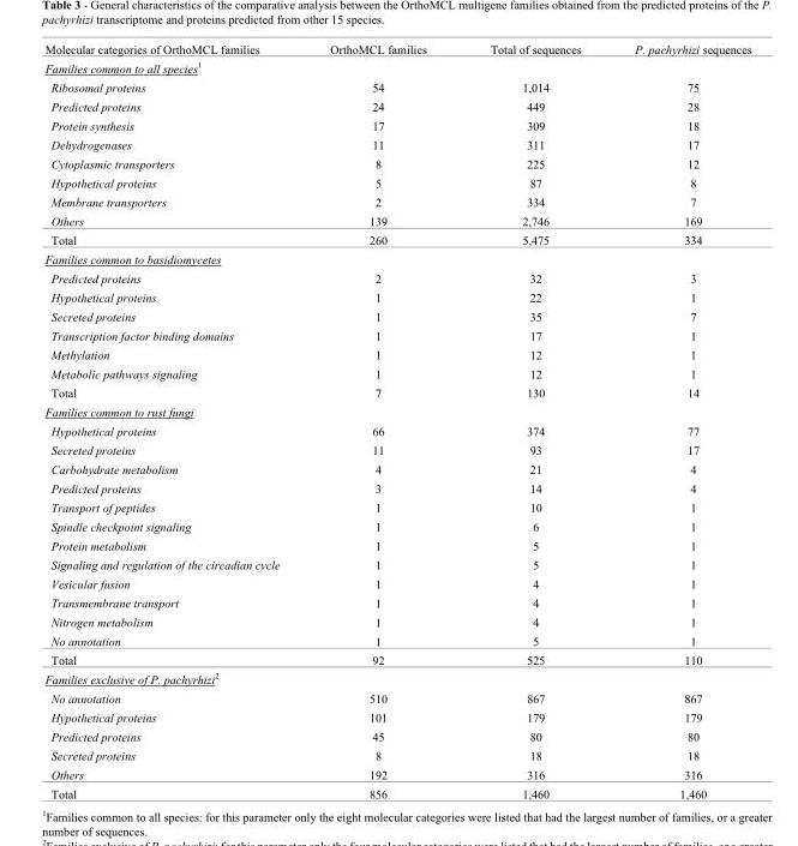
<table><thead><tr><td>Molecular categories of OrthoMCL families</td><td>OrthoMCL families</td><td>Total of sequences</td><td>P. pachyrhizi sequences</td></tr></thead><tbody><tr><td colspan="4">Families common to all species<sup>1</sup></td></tr><tr><td>Ribosomal proteins</td><td>54</td><td>1,014</td><td>75</td></tr><tr><td>Predicted proteins</td><td>24</td><td>449</td><td>28</td></tr><tr><td>Protein synthesis</td><td>17</td><td>309</td><td>18</td></tr><tr><td>Dehydrogenases</td><td>11</td><td>311</td><td>17</td></tr><tr><td>Cytoplasmic transporters</td><td>8</td><td>225</td><td>12</td></tr><tr><td>Hypothetical proteins</td><td>5</td><td>87</td><td>8</td></tr><tr><td>Membrane transporters</td><td>2</td><td>334</td><td>7</td></tr><tr><td>Others</td><td>139</td><td>2,746</td><td>169</td></tr><tr><td>Total</td><td>260</td><td>5,475</td><td>334</td></tr><tr><td colspan="4">Families common to basidiomycetes</td></tr><tr><td>Predicted proteins</td><td>2</td><td>32</td><td>3</td></tr><tr><td>Hypothetical proteins</td><td>1</td><td>22</td><td>1</td></tr><tr><td>Secreted proteins</td><td>1</td><td>35</td><td>7</td></tr><tr><td>Transcription factor binding domains</td><td>1</td><td>17</td><td>1</td></tr><tr><td>Methylation</td><td>1</td><td>12</td><td>1</td></tr><tr><td>Metabolic pathways signaling</td><td>1</td><td>12</td><td>1</td></tr><tr><td>Total</td><td>7</td><td>130</td><td>14</td></tr><tr><td colspan="4">Families common to rust fungi</td></tr><tr><td>Hypothetical proteins</td><td>66</td><td>374</td><td>77</td></tr><tr><td>Secreted proteins</td><td>11</td><td>93</td><td>17</td></tr><tr><td>Carbohydrate metabolism</td><td>4</td><td>21</td><td>4</td></tr><tr><td>Predicted proteins</td><td>3</td><td>14</td><td>4</td></tr><tr><td>Transport of peptides</td><td>1</td><td>10</td><td>1</td></tr><tr><td>Spindle checkpoint signaling</td><td>1</td><td>6</td><td>1</td></tr><tr><td>Protein metabolism</td><td>1</td><td>5</td><td>1</td></tr><tr><td>Signaling and regulation of the circadian cycle</td><td>1</td><td>5</td><td>1</td></tr><tr><td>Vesicular fusion</td><td>1</td><td>4</td><td>1</td></tr><tr><td>Transmembrane transport</td><td>1</td><td>4</td><td>1</td></tr><tr><td>Nitrogen metabolism</td><td>1</td><td>4</td><td>1</td></tr><tr><td>No annotation</td><td>1</td><td>5</td><td>1</td></tr><tr><td>Total</td><td>92</td><td>525</td><td>110</td></tr><tr><td colspan="4">Families exclusive of P. pachyrhizi<sup>2</sup></td></tr><tr><td>No annotation</td><td>510</td><td>867</td><td>867</td></tr><tr><td>Hypothetical proteins</td><td>101</td><td>179</td><td>179</td></tr><tr><td>Predicted proteins</td><td>45</td><td>80</td><td>80</td></tr><tr><td>Secreted proteins</td><td>8</td><td>18</td><td>18</td></tr><tr><td>Others</td><td>192</td><td>316</td><td>316</td></tr><tr><td>Total</td><td>856</td><td>1,460</td><td>1,460</td></tr></tbody></table>